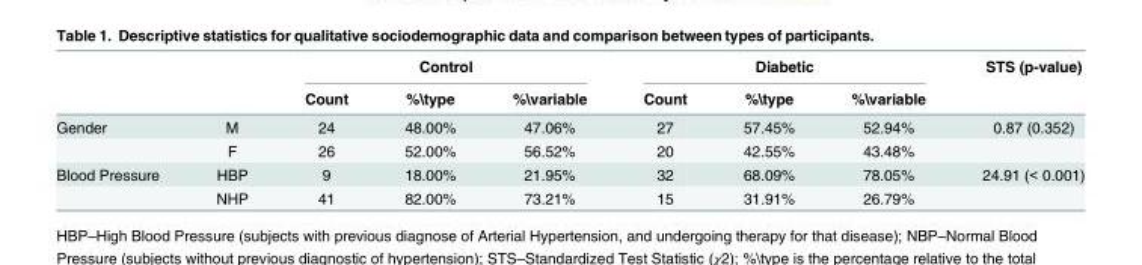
<table><thead><tr><td rowspan="2"></td><td rowspan="2"></td><td colspan="3">Control</td><td colspan="3">Diabetic</td><td rowspan="2">STS (p-value)</td></tr><tr><td>Count</td><td>%\type</td><td>%\variable</td><td>Count</td><td>%\type</td><td>%\variable</td></tr></thead><tbody><tr><td rowspan="2">Gender</td><td>M</td><td>24</td><td>48.00%</td><td>47.06%</td><td>27</td><td>57.45%</td><td>52.94%</td><td>0.87 (0.352)</td></tr><tr><td>F</td><td>26</td><td>52.00%</td><td>56.52%</td><td>20</td><td>42.55%</td><td>43.48%</td><td></td></tr><tr><td rowspan="2">Blood Pressure</td><td>HBP</td><td>9</td><td>18.00%</td><td>21.95%</td><td>32</td><td>68.09%</td><td>78.05%</td><td>24.91 (&lt; 0.001)</td></tr><tr><td>NHP</td><td>41</td><td>82.00%</td><td>73.21%</td><td>15</td><td>31.91%</td><td>26.79%</td><td></td></tr></tbody></table>